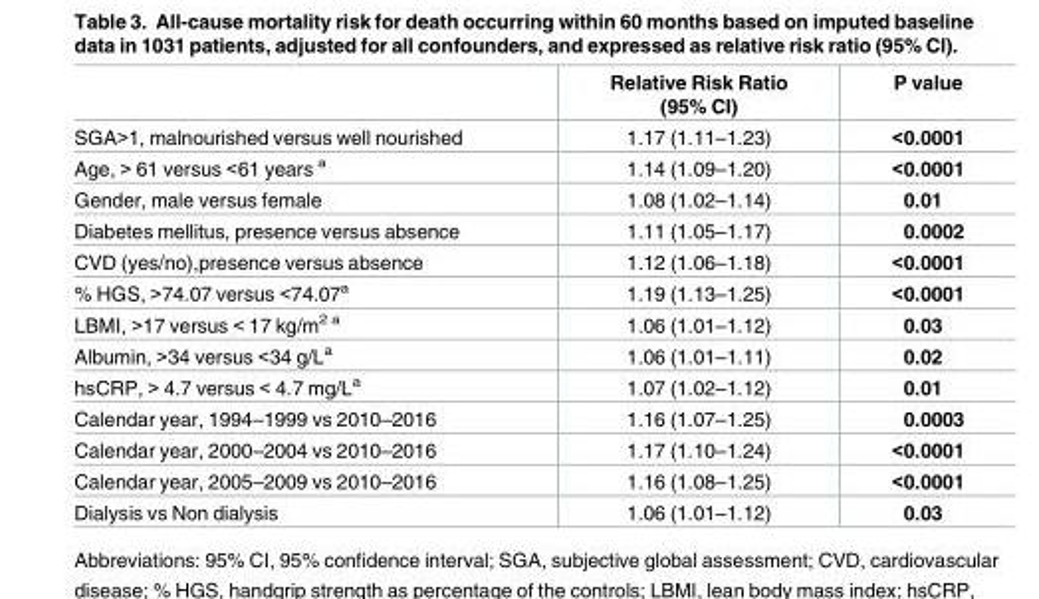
<table><thead><tr><td></td><td>Relative Risk Ratio (95% CI)</td><td>P value</td></tr></thead><tbody><tr><td>SGA&gt;1, malnourished versus well nourished</td><td>1.17 (1.11–1.23)</td><td>&lt;0.0001</td></tr><tr><td>Age, &gt; 61 versus &lt;61 years <sup>a</sup></td><td>1.14 (1.09–1.20)</td><td>&lt;0.0001</td></tr><tr><td>Gender, male versus female</td><td>1.08 (1.02–1.14)</td><td>0.01</td></tr><tr><td>Diabetes mellitus, presence versus absence</td><td>1.11 (1.05–1.17)</td><td>0.0002</td></tr><tr><td>CVD (yes/no),presence versus absence</td><td>1.12 (1.06–1.18)</td><td>&lt;0.0001</td></tr><tr><td>% HGS, &gt;74.07 versus &lt;74.07<sup>a</sup></td><td>1.19 (1.13–1.25)</td><td>&lt;0.0001</td></tr><tr><td>LBMI, &gt;17 versus &lt; 17 kg/m<sup>2 a</sup></td><td>1.06 (1.01–1.12)</td><td>0.03</td></tr><tr><td>Albumin, &gt;34 versus &lt;34 g/L<sup>a</sup></td><td>1.06 (1.01–1.11)</td><td>0.02</td></tr><tr><td>hsCRP, &gt; 4.7 versus &lt; 4.7 mg/L<sup>a</sup></td><td>1.07 (1.02–1.12)</td><td>0.01</td></tr><tr><td>Calendar year, 1994–1999 vs 2010–2016</td><td>1.16 (1.07–1.25)</td><td>0.0003</td></tr><tr><td>Calendar year, 2000–2004 vs 2010–2016</td><td>1.17 (1.10–1.24)</td><td>&lt;0.0001</td></tr><tr><td>Calendar year, 2005–2009 vs 2010–2016</td><td>1.16 (1.08–1.25)</td><td>&lt;0.0001</td></tr><tr><td>Dialysis vs Non dialysis</td><td>1.06 (1.01–1.12)</td><td>0.03</td></tr></tbody></table>